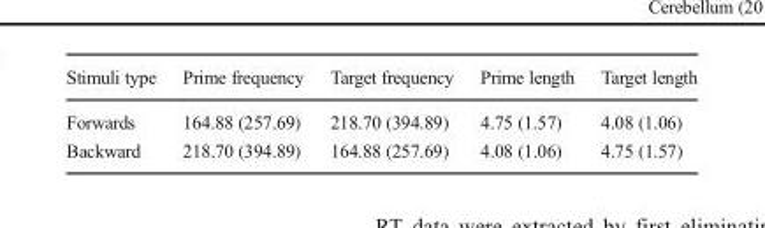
<table><thead><tr><td>Stimuli type</td><td>Prime frequency</td><td>Target frequency</td><td>Prime length</td><td>Target length</td></tr></thead><tbody><tr><td>Forwards</td><td>164.88 (257.69)</td><td>218.70 (394.89)</td><td>4.75 (1.57)</td><td>4.08 (1.06)</td></tr><tr><td>Backward</td><td>218.70 (394.89)</td><td>164.88 (257.69)</td><td>4.08 (1.06)</td><td>4.75 (1.57)</td></tr></tbody></table>